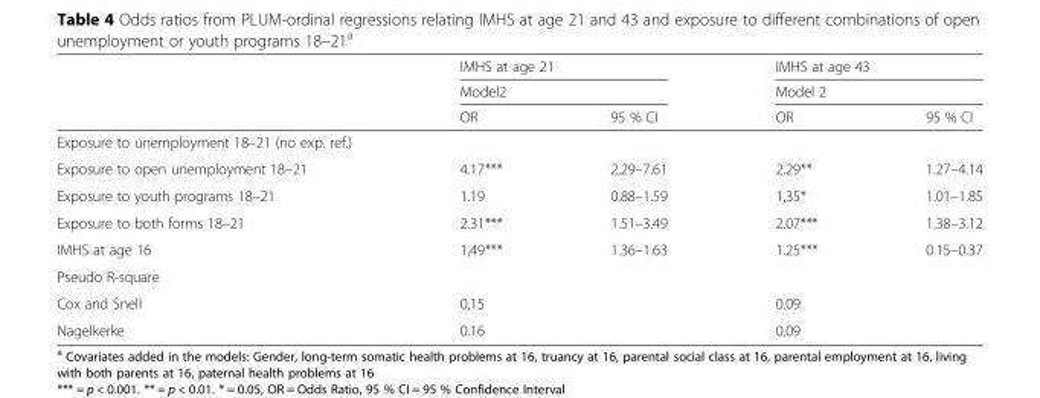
<table><thead><tr><td rowspan="3"></td><td rowspan="2" colspan="2">IMHS at age 21 Model2</td><td rowspan="2" colspan="2">IMHS at age 43 Model 2</td></tr><tr></tr><tr><td>OR</td><td>95 % CI</td><td>OR</td><td>95 % CI</td></tr></thead><tbody><tr><td colspan="5">Exposure to unemployment 18–21 (no exp. ref.)</td></tr><tr><td>Exposure to open unemployment 18–21</td><td>4.17***</td><td>2,29–7.61</td><td>2.29**</td><td>1.27–4.14</td></tr><tr><td>Exposure to youth programs 18–21</td><td>1.19</td><td>0.88–1.59</td><td>1,35*</td><td>1.01–1.85</td></tr><tr><td>Exposure to both forms 18–21</td><td>2.31***</td><td>1.51–3.49</td><td>2.07***</td><td>1.38–3.12</td></tr><tr><td>IMHS at age 16</td><td>1,49***</td><td>1.36–1.63</td><td>1.25***</td><td>0.15–0.37</td></tr><tr><td colspan="5">Pseudo R-square</td></tr><tr><td>Cox and Snell</td><td>0,15</td><td></td><td>0.09</td><td></td></tr><tr><td>Nagelkerke</td><td>0.16</td><td></td><td>0.09</td><td></td></tr></tbody></table>